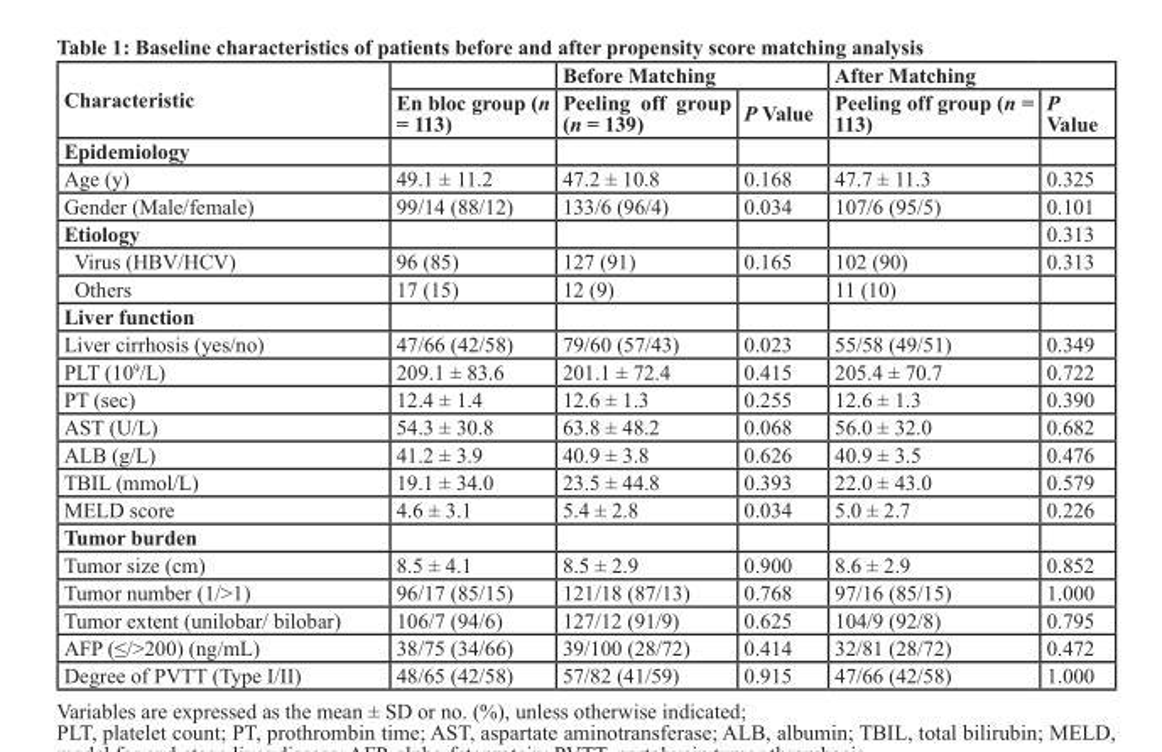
<table><thead><tr><td rowspan="2">Characteristic</td><td rowspan="2">En bloc group (n = 113)</td><td colspan="2">Before Matching</td><td colspan="2">After Matching</td></tr><tr><td>Peeling off group (n = 139)</td><td>P Value</td><td>Peeling off group (n = 113)</td><td>P Value</td></tr></thead><tbody><tr><td colspan="6">Epidemiology</td></tr><tr><td>Age (y)</td><td>49.1 ± 11.2</td><td>47.2 ± 10.8</td><td>0.168</td><td>47.7 ± 11.3</td><td>0.325</td></tr><tr><td>Gender (Male/female)</td><td>99/14 (88/12)</td><td>133/6 (96/4)</td><td>0.034</td><td>107/6 (95/5)</td><td>0.101</td></tr><tr><td>Etiology</td><td></td><td></td><td></td><td></td><td>0.313</td></tr><tr><td>Virus (HBV/HCV)</td><td>96 (85)</td><td>127 (91)</td><td>0.165</td><td>102 (90)</td><td>0.313</td></tr><tr><td>Others</td><td>17 (15)</td><td>12 (9)</td><td></td><td>11 (10)</td><td></td></tr><tr><td colspan="6">Liver function</td></tr><tr><td>Liver cirrhosis (yes/no)</td><td>47/66 (42/58)</td><td>79/60 (57/43)</td><td>0.023</td><td>55/58 (49/51)</td><td>0.349</td></tr><tr><td>PLT (10<sup>9</sup>/L)</td><td>209.1 ± 83.6</td><td>201.1 ± 72.4</td><td>0.415</td><td>205.4 ± 70.7</td><td>0.722</td></tr><tr><td>PT (sec)</td><td>12.4 ± 1.4</td><td>12.6 ± 1.3</td><td>0.255</td><td>12.6 ± 1.3</td><td>0.390</td></tr><tr><td>AST (U/L)</td><td>54.3 ± 30.8</td><td>63.8 ± 48.2</td><td>0.068</td><td>56.0 ± 32.0</td><td>0.682</td></tr><tr><td>ALB (g/L)</td><td>41.2 ± 3.9</td><td>40.9 ± 3.8</td><td>0.626</td><td>40.9 ± 3.5</td><td>0.476</td></tr><tr><td>TBIL (mmol/L)</td><td>19.1 ± 34.0</td><td>23.5 ± 44.8</td><td>0.393</td><td>22.0 ± 43.0</td><td>0.579</td></tr><tr><td>MELD score</td><td>4.6 ± 3.1</td><td>5.4 ± 2.8</td><td>0.034</td><td>5.0 ± 2.7</td><td>0.226</td></tr><tr><td colspan="6">Tumor burden</td></tr><tr><td>Tumor size (cm)</td><td>8.5 ± 4.1</td><td>8.5 ± 2.9</td><td>0.900</td><td>8.6 ± 2.9</td><td>0.852</td></tr><tr><td>Tumor number (1/&gt;1)</td><td>96/17 (85/15)</td><td>121/18 (87/13)</td><td>0.768</td><td>97/16 (85/15)</td><td>1.000</td></tr><tr><td>Tumor extent (unilobar/ bilobar)</td><td>106/7 (94/6)</td><td>127/12 (91/9)</td><td>0.625</td><td>104/9 (92/8)</td><td>0.795</td></tr><tr><td>AFP (≤/&gt;200) (ng/mL)</td><td>38/75 (34/66)</td><td>39/100 (28/72)</td><td>0.414</td><td>32/81 (28/72)</td><td>0.472</td></tr><tr><td>Degree of PVTT (Type I/II)</td><td>48/65 (42/58)</td><td>57/82 (41/59)</td><td>0.915</td><td>47/66 (42/58)</td><td>1.000</td></tr></tbody></table>